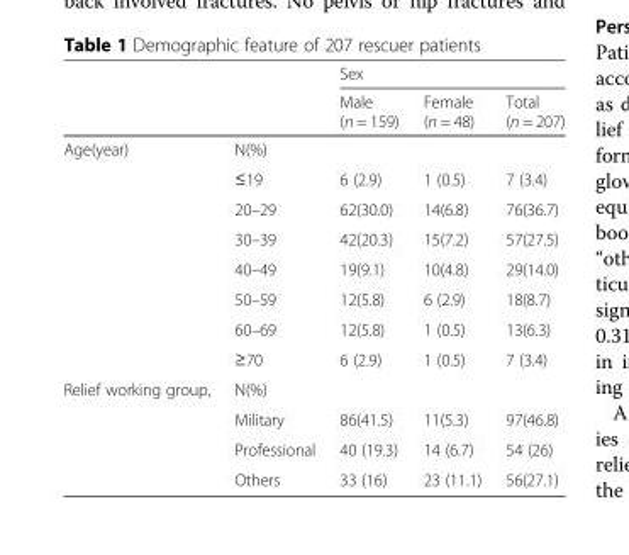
<table><thead><tr><td rowspan="2"></td><td rowspan="2"></td><td colspan="3">Sex</td></tr><tr><td>Male (n = 159)</td><td>Female (n = 48)</td><td>Total (n = 207)</td></tr></thead><tbody><tr><td rowspan="8">Age(year)</td><td>N(%)</td><td></td><td></td><td></td></tr><tr><td>≤19</td><td>6 (2.9)</td><td>1 (0.5)</td><td>7 (3.4)</td></tr><tr><td>20–29</td><td>62(30.0)</td><td>14(6.8)</td><td>76(36.7)</td></tr><tr><td>30–39</td><td>42(20.3)</td><td>15(7.2)</td><td>57(27.5)</td></tr><tr><td>40–49</td><td>19(9.1)</td><td>10(4.8)</td><td>29(14.0)</td></tr><tr><td>50–59</td><td>12(5.8)</td><td>6 (2.9)</td><td>18(8.7)</td></tr><tr><td>60–69</td><td>12(5.8)</td><td>1 (0.5)</td><td>13(6.3)</td></tr><tr><td>≥70</td><td>6 (2.9)</td><td>1 (0.5)</td><td>7 (3.4)</td></tr><tr><td rowspan="4">Relief working group,</td><td>N(%)</td><td></td><td></td><td></td></tr><tr><td>Military</td><td>86(41.5)</td><td>11(5.3)</td><td>97(46.8)</td></tr><tr><td>Professional</td><td>40 (19.3)</td><td>14 (6.7)</td><td>54 (26)</td></tr><tr><td>Others</td><td>33 (16)</td><td>23 (11.1)</td><td>56(27.1)</td></tr></tbody></table>